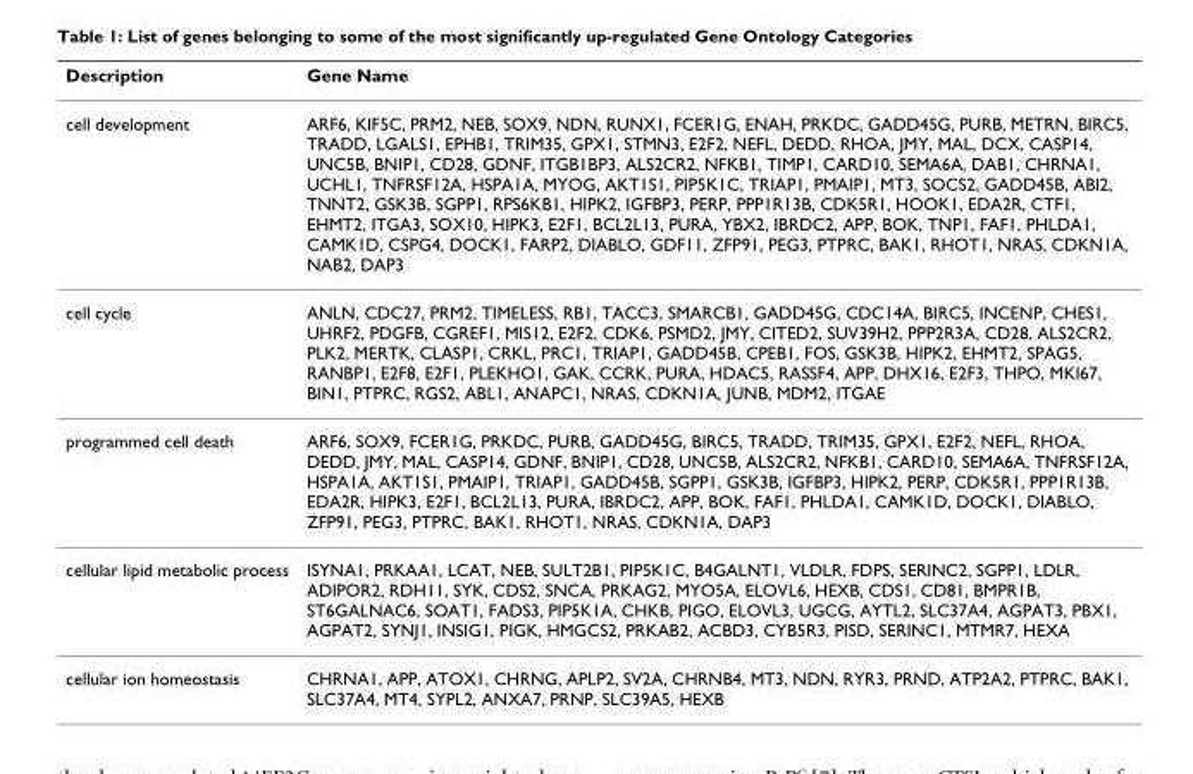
<table><thead><tr><td>Description</td><td>Gene Name</td></tr></thead><tbody><tr><td>cell development</td><td>ARF6, KIF5C, PRM2, NEB, SOX9, NDN, RUNX1, FCER1G, ENAH, PRKDC, GADD45G, PURB, METRN, BIRC5, TRADD, LGALS1, EPHB1, TRIM35, GPX1, STMN3, E2F2, NEFL, DEDD, RHOA, JMY, MAL, DCX, CASP14, UNC5B, BNIP1, CD28, GDNF, ITGB1BP3, ALS2CR2, NFKB1, TIMP1, CARD10, SEMA6A, DAB1, CHRNA1, UCHL1, TNFRSF12A, HSPA1A, MYOG, AKT1S1, PIP5K1C, TRIAP1, PMAIP1, MT3, SOCS2, GADD45B, ABI2, TNNT2, GSK3B, SGPP1, RPS6KB1, HIPK2, IGFBP3, PERP, PPP1R13B, CDK5R1, HOOK1, EDA2R, CTF1, EHMT2, ITGA3, SOX10, HIPK3, E2F1, BCL2L13, PURA, YBX2, IBRDC2, APP, BOK, TNP1, FAF1, PHLDA1, CAMK1D, CSPG4, DOCK1, FARP2, DIABLO, GDF11, ZFP91, PEG3, PTPRC, BAK1, RHOT1, NRAS, CDKN1A, NAB2, DAP3</td></tr><tr><td>cell cycle</td><td>ANLN, CDC27, PRM2, TIMELESS, RB1, TACC3, SMARCB1, GADD45G, CDC14A, BIRC5, INCENP, CHES1, UHRF2, PDGFB, CGREF1, MIS12, E2F2, CDK6, PSMD2, JMY, CITED2, SUV39H2, PPP2R3A, CD28, ALS2CR2, PLK2, MERTK, CLASP1, CRKL, PRC1, TRIAP1, GADD45B, CPEB1, FOS, GSK3B, HIPK2, EHMT2, SPAG5, RANBP1, E2F8, E2F1, PLEKHO1, GAK, CCRK, PURA, HDAC5, RASSF4, APP, DHX16, E2F3, THPO, MKI67, BIN1, PTPRC, RGS2, ABL1, ANAPC1, NRAS, CDKN1A, JUNB, MDM2, ITGAE</td></tr><tr><td>programmed cell death</td><td>ARF6, SOX9, FCER1G, PRKDC, PURB, GADD45G, BIRC5, TRADD, TRIM35, GPX1, E2F2, NEFL, RHOA, DEDD, JMY, MAL, CASP14, GDNF, BNIP1, CD28, UNC5B, ALS2CR2, NFKB1, CARD10, SEMA6A, TNFRSF12A, HSPA1A, AKT1S1, PMAIP1, TRIAP1, GADD45B, SGPP1, GSK3B, IGFBP3, HIPK2, PERP, CDK5R1, PPP1R13B, EDA2R, HIPK3, E2F1, BCL2L13, PURA, IBRDC2, APP, BOK, FAF1, PHLDA1, CAMK1D, DOCK1, DIABLO, ZFP91, PEG3, PTPRC, BAK1, RHOT1, NRAS, CDKN1A, DAP3</td></tr><tr><td>cellular lipid metabolic process</td><td>ISYNA1, PRKAA1, LCAT, NEB, SULT2B1, PIP5K1C, B4GALNT1, VLDLR, FDPS, SERINC2, SGPP1, LDLR, ADIPOR2, RDH11, SYK, CDS2, SNCA, PRKAG2, MYO5A, ELOVL6, HEXB, CDS1, CD81, BMPR1B, ST6GALNAC6, SOAT1, FADS3, PIP5K1A, CHKB, PIGO, ELOVL3, UGCG, AYTL2, SLC37A4, AGPAT3, PBX1, AGPAT2, SYNJ1, INSIG1, PIGK, HMGCS2, PRKAB2, ACBD3, CYB5R3, PISD, SERINC1, MTMR7, HEXA</td></tr><tr><td>cellular ion homeostasis</td><td>CHRNA1, APP, ATOX1, CHRNG, APLP2, SV2A, CHRNB4, MT3, NDN, RYR3, PRND, ATP2A2, PTPRC, BAK1, SLC37A4, MT4, SYPL2, ANXA7, PRNP, SLC39A5, HEXB</td></tr></tbody></table>